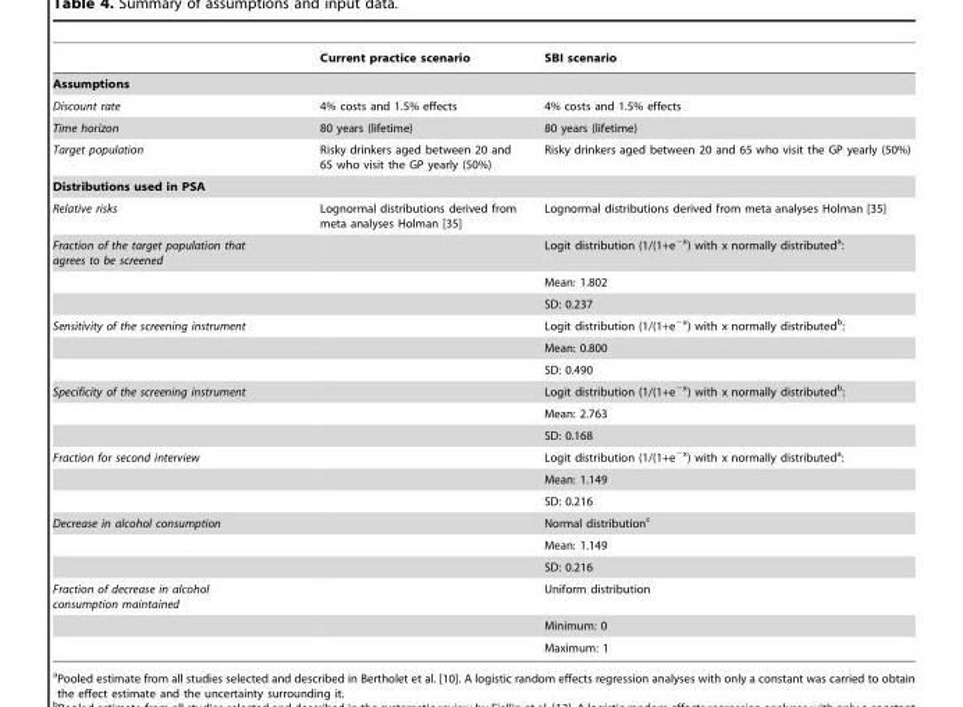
<table><thead><tr><td></td><td>Current practice scenario</td><td>SBI scenario</td></tr></thead><tbody><tr><td colspan="3">Assumptions</td></tr><tr><td>Discount rate</td><td>4% costs and 1.5% effects</td><td>4% costs and 1.5% effects</td></tr><tr><td>Time horizon</td><td>80 years (lifetime)</td><td>80 years (lifetime)</td></tr><tr><td>Target population</td><td>Risky drinkers aged between 20 and 65 who visit the GP yearly (50%)</td><td>Risky drinkers aged between 20 and 65 who visit the GP yearly (50%)</td></tr><tr><td colspan="3">Distributions used in PSA</td></tr><tr><td>Relative risks</td><td>Lognormal distributions derived from meta analyses Holman [35]</td><td>Lognormal distributions derived from meta analyses Holman [35]</td></tr><tr><td rowspan="3">Fraction of the target population that agrees to be screened</td><td></td><td>Logit distribution (1/(1+e<sup>−x</sup>) with x normally distributed<sup>a</sup>:</td></tr><tr><td></td><td>Mean: 1.802</td></tr><tr><td></td><td>SD: 0.237</td></tr><tr><td rowspan="3">Sensitivity of the screening instrument</td><td></td><td>Logit distribution (1/(1+e<sup>−x</sup>) with x normally distributed<sup>b</sup>:</td></tr><tr><td></td><td>Mean: 0.800</td></tr><tr><td></td><td>SD: 0.490</td></tr><tr><td rowspan="3">Specificity of the screening instrument</td><td></td><td>Logit distribution (1/(1+e<sup>−x</sup>) with x normally distributed<sup>b</sup>:</td></tr><tr><td></td><td>Mean: 2.763</td></tr><tr><td></td><td>SD: 0.168</td></tr><tr><td rowspan="3">Fraction for second interview</td><td></td><td>Logit distribution (1/(1+e<sup>−x</sup>) with x normally distributed<sup>a</sup>:</td></tr><tr><td></td><td>Mean: 1.149</td></tr><tr><td></td><td>SD: 0.216</td></tr><tr><td rowspan="3">Decrease in alcohol consumption</td><td></td><td>Normal distribution<sup>c</sup></td></tr><tr><td></td><td>Mean: 1.149</td></tr><tr><td></td><td>SD: 0.216</td></tr><tr><td rowspan="3">Fraction of decrease in alcohol consumption maintained</td><td></td><td>Uniform distribution</td></tr><tr><td></td><td>Minimum: 0</td></tr><tr><td></td><td>Maximum: 1</td></tr></tbody></table>